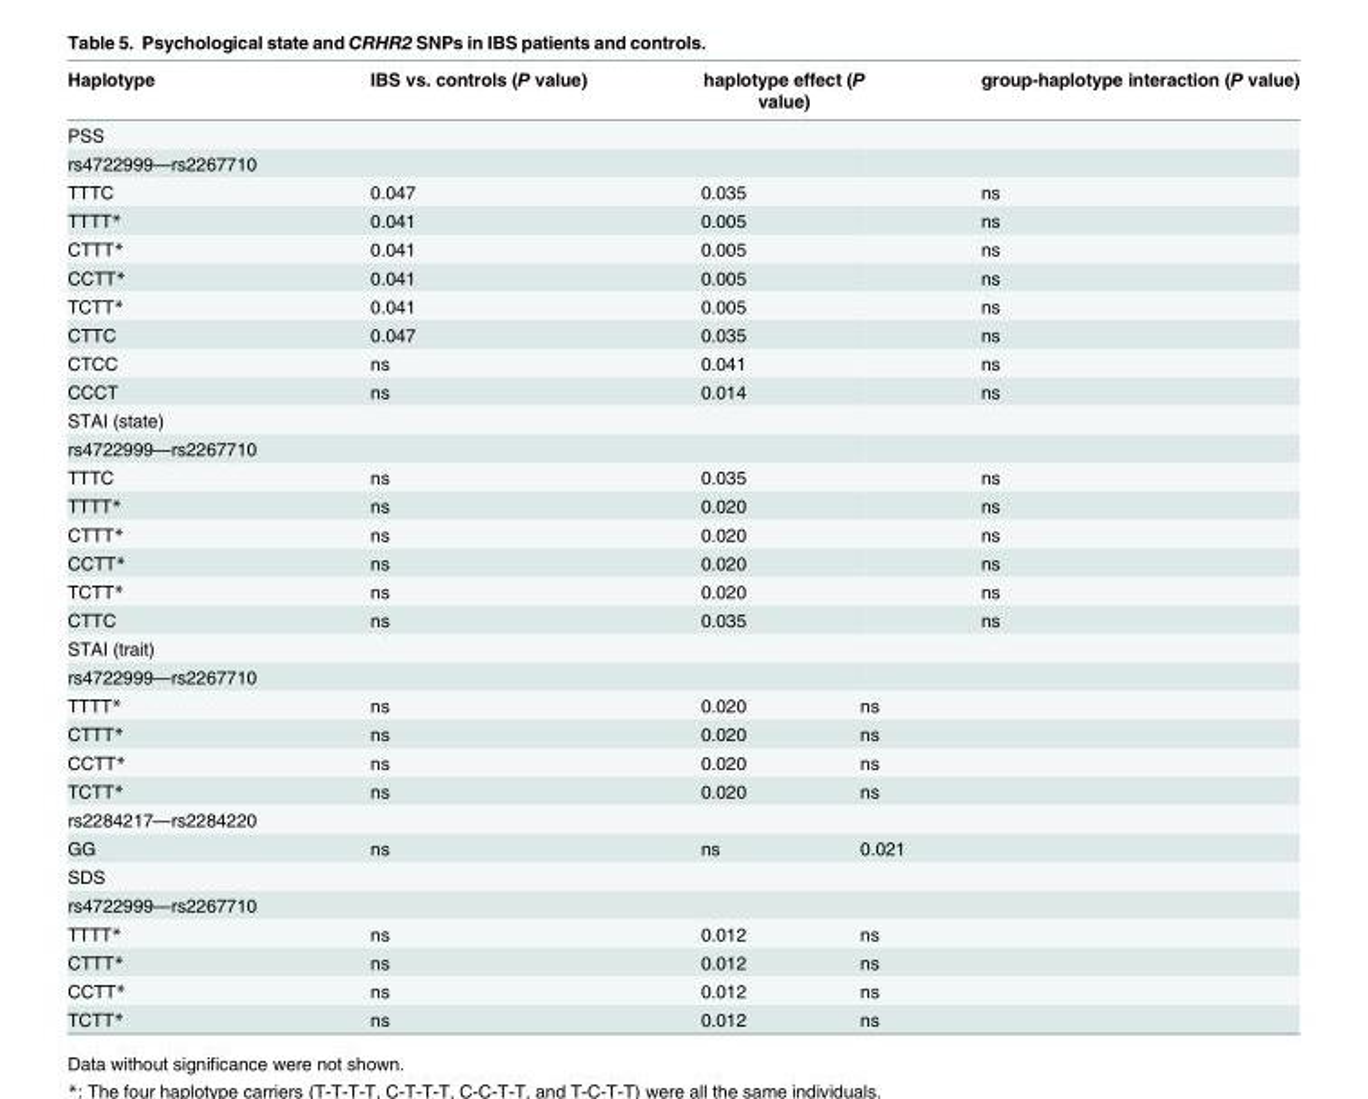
<table><thead><tr><td>Haplotype</td><td>IBS vs. controls (P value)</td><td colspan="2">haplotype effect (P value)</td><td>group-haplotype interaction (P value)</td></tr></thead><tbody><tr><td colspan="5">PSS</td></tr><tr><td colspan="5">rs4722999—rs2267710</td></tr><tr><td>TTTC</td><td>0.047</td><td colspan="2">0.035</td><td>ns</td></tr><tr><td>TTTT*</td><td>0.041</td><td colspan="2">0.005</td><td>ns</td></tr><tr><td>CTTT*</td><td>0.041</td><td colspan="2">0.005</td><td>ns</td></tr><tr><td>CCTT*</td><td>0.041</td><td colspan="2">0.005</td><td>ns</td></tr><tr><td>TCTT*</td><td>0.041</td><td colspan="2">0.005</td><td>ns</td></tr><tr><td>CTTC</td><td>0.047</td><td colspan="2">0.035</td><td>ns</td></tr><tr><td>CTCC</td><td>ns</td><td colspan="2">0.041</td><td>ns</td></tr><tr><td>CCCT</td><td>ns</td><td colspan="2">0.014</td><td>ns</td></tr><tr><td colspan="5">STAI (state)</td></tr><tr><td colspan="5">rs4722999—rs2267710</td></tr><tr><td>TTTC</td><td>ns</td><td colspan="2">0.035</td><td>ns</td></tr><tr><td>TTTT*</td><td>ns</td><td colspan="2">0.020</td><td>ns</td></tr><tr><td>CTTT*</td><td>ns</td><td colspan="2">0.020</td><td>ns</td></tr><tr><td>CCTT*</td><td>ns</td><td colspan="2">0.020</td><td>ns</td></tr><tr><td>TCTT*</td><td>ns</td><td colspan="2">0.020</td><td>ns</td></tr><tr><td>CTTC</td><td>ns</td><td colspan="2">0.035</td><td>ns</td></tr><tr><td colspan="5">STAI (trait)</td></tr><tr><td colspan="5">rs4722999—rs2267710</td></tr><tr><td>TTTT*</td><td>ns</td><td>0.020</td><td colspan="2">ns</td></tr><tr><td>CTTT*</td><td>ns</td><td>0.020</td><td colspan="2">ns</td></tr><tr><td>CCTT*</td><td>ns</td><td>0.020</td><td colspan="2">ns</td></tr><tr><td>TCTT*</td><td>ns</td><td>0.020</td><td colspan="2">ns</td></tr><tr><td colspan="5">rs2284217—rs2284220</td></tr><tr><td>GG</td><td>ns</td><td>ns</td><td colspan="2">0.021</td></tr><tr><td colspan="5">SDS</td></tr><tr><td colspan="5">rs4722999—rs2267710</td></tr><tr><td>TTTT*</td><td>ns</td><td>0.012</td><td colspan="2">ns</td></tr><tr><td>CTTT*</td><td>ns</td><td>0.012</td><td colspan="2">ns</td></tr><tr><td>CCTT*</td><td>ns</td><td>0.012</td><td colspan="2">ns</td></tr><tr><td>TCTT*</td><td>ns</td><td>0.012</td><td colspan="2">ns</td></tr></tbody></table>